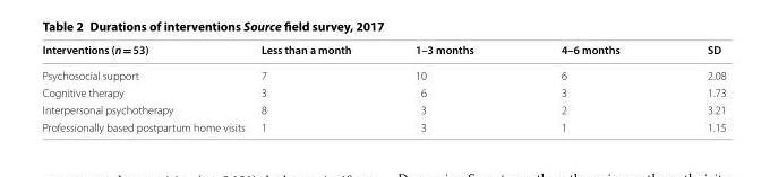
<table><thead><tr><td>Interventions (n = 53)</td><td>Less than a month</td><td>1–3 months</td><td>4–6 months</td><td>SD</td></tr></thead><tbody><tr><td>Psychosocial support</td><td>7</td><td>10</td><td>6</td><td>2.08</td></tr><tr><td>Cognitive therapy</td><td>3</td><td>6</td><td>3</td><td>1.73</td></tr><tr><td>Interpersonal psychotherapy</td><td>8</td><td>3</td><td>2</td><td>3.21</td></tr><tr><td>Professionally based postpartum home visits</td><td>1</td><td>3</td><td>1</td><td>1.15</td></tr></tbody></table>